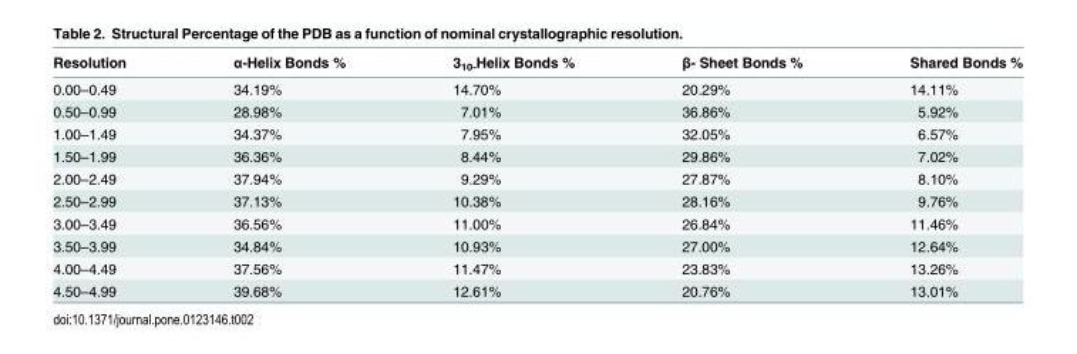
<table><thead><tr><td>Resolution</td><td>α-Helix Bonds %</td><td>3<sub>10-</sub>Helix Bonds %</td><td>β- Sheet Bonds %</td><td>Shared Bonds %</td></tr></thead><tbody><tr><td>0.00–0.49</td><td>34.19%</td><td>14.70%</td><td>20.29%</td><td>14.11%</td></tr><tr><td>0.50–0.99</td><td>28.98%</td><td>7.01%</td><td>36.86%</td><td>5.92%</td></tr><tr><td>1.00–1.49</td><td>34.37%</td><td>7.95%</td><td>32.05%</td><td>6.57%</td></tr><tr><td>1.50–1.99</td><td>36.36%</td><td>8.44%</td><td>29.86%</td><td>7.02%</td></tr><tr><td>2.00–2.49</td><td>37.94%</td><td>9.29%</td><td>27.87%</td><td>8.10%</td></tr><tr><td>2.50–2.99</td><td>37.13%</td><td>10.38%</td><td>28.16%</td><td>9.76%</td></tr><tr><td>3.00–3.49</td><td>36.56%</td><td>11.00%</td><td>26.84%</td><td>11.46%</td></tr><tr><td>3.50–3.99</td><td>34.84%</td><td>10.93%</td><td>27.00%</td><td>12.64%</td></tr><tr><td>4.00–4.49</td><td>37.56%</td><td>11.47%</td><td>23.83%</td><td>13.26%</td></tr><tr><td>4.50–4.99</td><td>39.68%</td><td>12.61%</td><td>20.76%</td><td>13.01%</td></tr></tbody></table>